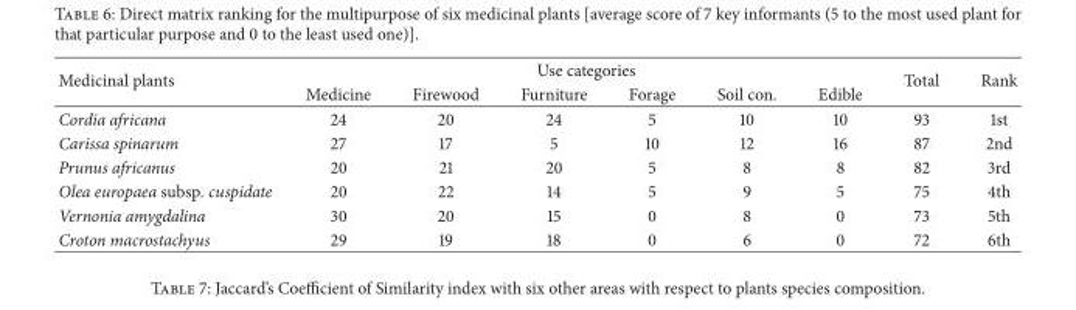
<table><thead><tr><td rowspan="2">Medicinal plants</td><td colspan="6">Use categories</td><td rowspan="2">Total</td><td rowspan="2">Rank</td></tr><tr><td>Medicine</td><td>Firewood</td><td>Furniture</td><td>Forage</td><td>Soil con.</td><td>Edible</td></tr></thead><tbody><tr><td>Cordia africana</td><td>24</td><td>20</td><td>24</td><td>5</td><td>10</td><td>10</td><td>93</td><td>1st</td></tr><tr><td>Carissa spinarum</td><td>27</td><td>17</td><td>5</td><td>10</td><td>12</td><td>16</td><td>87</td><td>2nd</td></tr><tr><td>Prunus africanus</td><td>20</td><td>21</td><td>20</td><td>5</td><td>8</td><td>8</td><td>82</td><td>3rd</td></tr><tr><td>Olea europaea subsp. cuspidate</td><td>20</td><td>22</td><td>14</td><td>5</td><td>9</td><td>5</td><td>75</td><td>4th</td></tr><tr><td>Vernonia amygdalina</td><td>30</td><td>20</td><td>15</td><td>0</td><td>8</td><td>0</td><td>73</td><td>5th</td></tr><tr><td>Croton macrostachyus</td><td>29</td><td>19</td><td>18</td><td>0</td><td>6</td><td>0</td><td>72</td><td>6th</td></tr></tbody></table>